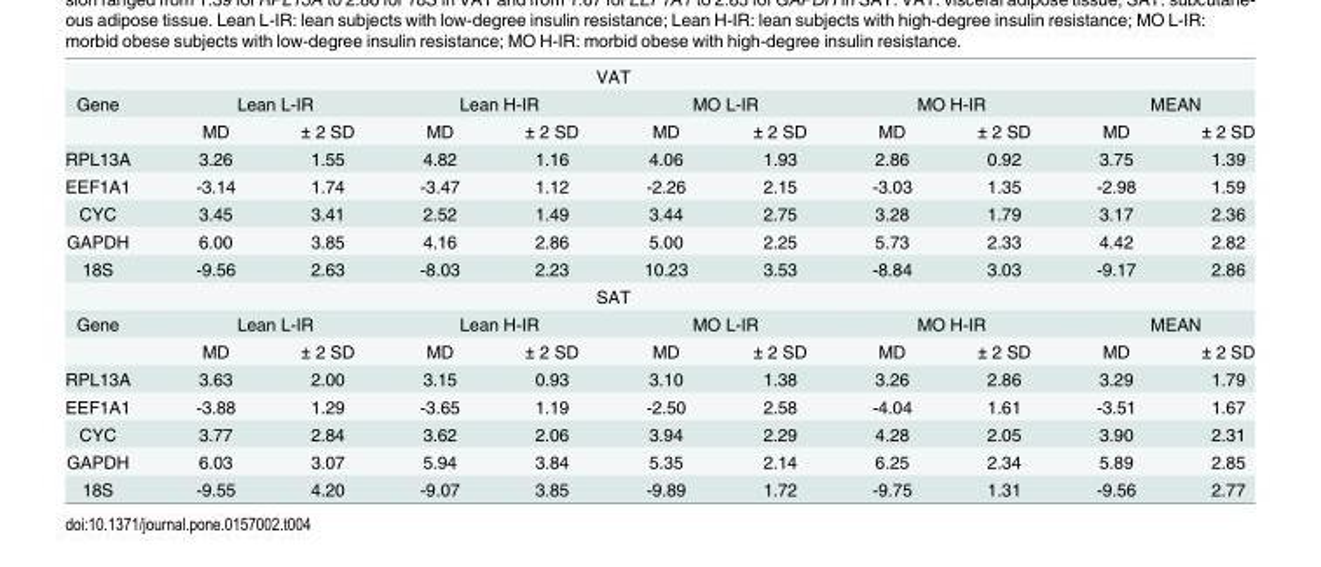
<table><thead><tr><td rowspan="3">Gene</td><td colspan="8">VAT</td><td></td><td></td></tr><tr><td colspan="2">Lean L-IR</td><td colspan="2">Lean H-IR</td><td colspan="2">MO L-IR</td><td colspan="2">MO H-IR</td><td colspan="2">MEAN</td></tr><tr><td>MD</td><td>± 2 SD</td><td>MD</td><td>± 2 SD</td><td>MD</td><td>± 2 SD</td><td>MD</td><td>± 2 SD</td><td>MD</td><td>± 2 SD</td></tr></thead><tbody><tr><td>RPL13A</td><td>3.26</td><td>1.55</td><td>4.82</td><td>1.16</td><td>4.06</td><td>1.93</td><td>2.86</td><td>0.92</td><td>3.75</td><td>1.39</td></tr><tr><td>EEF1A1</td><td>-3.14</td><td>1.74</td><td>-3.47</td><td>1.12</td><td>-2.26</td><td>2.15</td><td>-3.03</td><td>1.35</td><td>-2.98</td><td>1.59</td></tr><tr><td>CYC</td><td>3.45</td><td>3.41</td><td>2.52</td><td>1.49</td><td>3.44</td><td>2.75</td><td>3.28</td><td>1.79</td><td>3.17</td><td>2.36</td></tr><tr><td>GAPDH</td><td>6.00</td><td>3.85</td><td>4.16</td><td>2.86</td><td>5.00</td><td>2.25</td><td>5.73</td><td>2.33</td><td>4.42</td><td>2.82</td></tr><tr><td rowspan="2">18S</td><td>-9.56</td><td>2.63</td><td>-8.03</td><td>2.23</td><td>10.23</td><td>3.53</td><td>-8.84</td><td>3.03</td><td>-9.17</td><td>2.86</td></tr><tr><td colspan="8">SAT</td><td colspan="2"></td></tr><tr><td rowspan="2">Gene</td><td colspan="2">Lean L-IR</td><td colspan="2">Lean H-IR</td><td colspan="2">MO L-IR</td><td colspan="2">MO H-IR</td><td colspan="2">MEAN</td></tr><tr><td>MD</td><td>± 2 SD</td><td>MD</td><td>± 2 SD</td><td>MD</td><td>± 2 SD</td><td>MD</td><td>± 2 SD</td><td>MD</td><td>± 2 SD</td></tr><tr><td>RPL13A</td><td>3.63</td><td>2.00</td><td>3.15</td><td>0.93</td><td>3.10</td><td>1.38</td><td>3.26</td><td>2.86</td><td>3.29</td><td>1.79</td></tr><tr><td>EEF1A1</td><td>-3.88</td><td>1.29</td><td>-3.65</td><td>1.19</td><td>-2.50</td><td>2.58</td><td>-4.04</td><td>1.61</td><td>-3.51</td><td>1.67</td></tr><tr><td>CYC</td><td>3.77</td><td>2.84</td><td>3.62</td><td>2.06</td><td>3.94</td><td>2.29</td><td>4.28</td><td>2.05</td><td>3.90</td><td>2.31</td></tr><tr><td>GAPDH</td><td>6.03</td><td>3.07</td><td>5.94</td><td>3.84</td><td>5.35</td><td>2.14</td><td>6.25</td><td>2.34</td><td>5.89</td><td>2.85</td></tr><tr><td>18S</td><td>-9.55</td><td>4.20</td><td>-9.07</td><td>3.85</td><td>-9.89</td><td>1.72</td><td>-9.75</td><td>1.31</td><td>-9.56</td><td>2.77</td></tr></tbody></table>